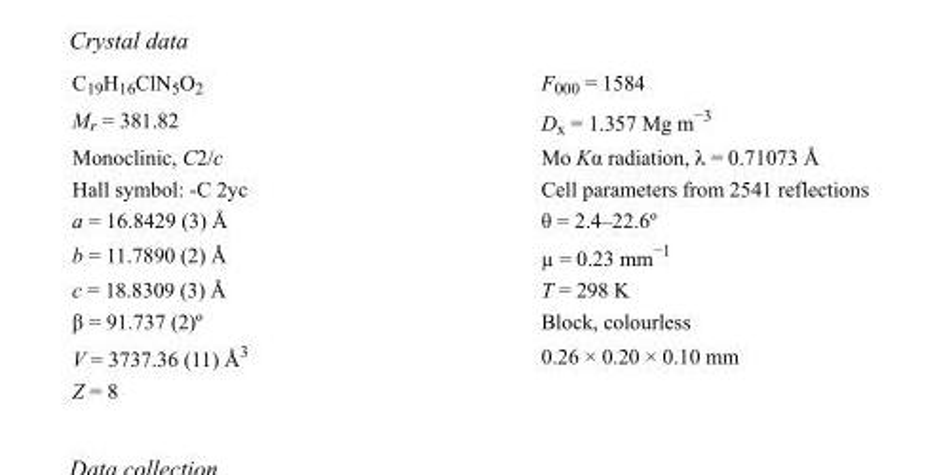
<table><tbody><tr><td>C<sub>19</sub>H<sub>16</sub>ClN<sub>5</sub>O<sub>2</sub></td><td>F000 = 1584</td></tr><tr><td>M<sub>r</sub> = 381.82</td><td>D<sub>x</sub> = 1.357 Mg m<sup>−3</sup></td></tr><tr><td>Monoclinic, C2/c</td><td>Mo Kα radiation, λ = 0.71073 Å</td></tr><tr><td>Hall symbol: -C 2yc</td><td>Cell parameters from 2541 reflections</td></tr><tr><td>a = 16.8429 (3) Å</td><td>θ = 2.4–22.6º</td></tr><tr><td>b = 11.7890 (2) Å</td><td>µ = 0.23 mm<sup>−1</sup></td></tr><tr><td>c = 18.8309 (3) Å</td><td>T = 298 K</td></tr><tr><td>β = 91.737 (2)º</td><td>Block, colourless</td></tr><tr><td>V = 3737.36 (11) Å<sup>3</sup></td><td>0.26 × 0.20 × 0.10 mm</td></tr><tr><td>Z = 8</td><td></td></tr></tbody></table>